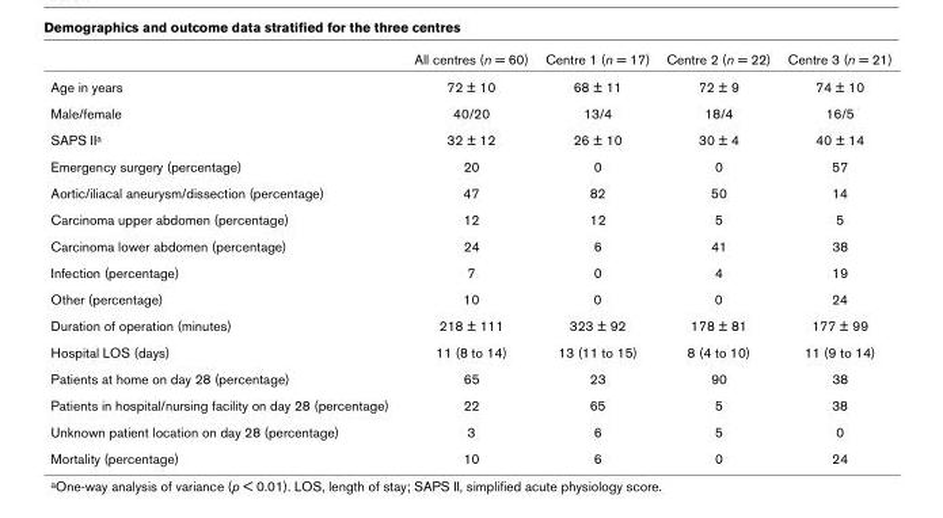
<table><thead><tr><td></td><td>All centres (n = 60)</td><td>Centre 1 (n = 17)</td><td>Centre 2 (n = 22)</td><td>Centre 3 (n = 21)</td></tr></thead><tbody><tr><td>Age in years</td><td>72 ± 10</td><td>68 ± 11</td><td>72 ± 9</td><td>74 ± 10</td></tr><tr><td>Male/female</td><td>40/20</td><td>13/4</td><td>18/4</td><td>16/5</td></tr><tr><td>SAPS IIa</td><td>32 ± 12</td><td>26 ± 10</td><td>30 ± 4</td><td>40 ± 14</td></tr><tr><td>Emergency surgery (percentage)</td><td>20</td><td>0</td><td>0</td><td>57</td></tr><tr><td>Aortic/iliacal aneurysm/dissection (percentage)</td><td>47</td><td>82</td><td>50</td><td>14</td></tr><tr><td>Carcinoma upper abdomen (percentage)</td><td>12</td><td>12</td><td>5</td><td>5</td></tr><tr><td>Carcinoma lower abdomen (percentage)</td><td>24</td><td>6</td><td>41</td><td>38</td></tr><tr><td>Infection (percentage)</td><td>7</td><td>0</td><td>4</td><td>19</td></tr><tr><td>Other (percentage)</td><td>10</td><td>0</td><td>0</td><td>24</td></tr><tr><td>Duration of operation (minutes)</td><td>218 ± 111</td><td>323 ± 92</td><td>178 ± 81</td><td>177 ± 99</td></tr><tr><td>Hospital LOS (days)</td><td>11 (8 to 14)</td><td>13 (11 to 15)</td><td>8 (4 to 10)</td><td>11 (9 to 14)</td></tr><tr><td>Patients at home on day 28 (percentage)</td><td>65</td><td>23</td><td>90</td><td>38</td></tr><tr><td>Patients in hospital/nursing facility on day 28 (percentage)</td><td>22</td><td>65</td><td>5</td><td>38</td></tr><tr><td>Unknown patient location on day 28 (percentage)</td><td>3</td><td>6</td><td>5</td><td>0</td></tr><tr><td>Mortality (percentage)</td><td>10</td><td>6</td><td>0</td><td>24</td></tr></tbody></table>